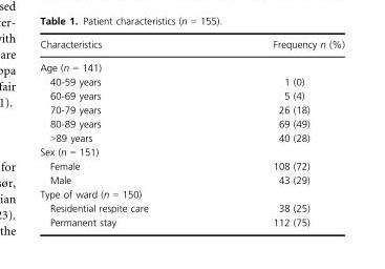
<table><thead><tr><td>Characteristics</td><td>Frequency n (%)</td></tr></thead><tbody><tr><td colspan="2">Age (n = 141)</td></tr><tr><td>40-59 years</td><td>1 (0)</td></tr><tr><td>60-69 years</td><td>5 (4)</td></tr><tr><td>70-79 years</td><td>26 (18)</td></tr><tr><td>80-89 years</td><td>69 (49)</td></tr><tr><td>&gt;89 years</td><td>40 (28)</td></tr><tr><td colspan="2">Sex (n = 151)</td></tr><tr><td>Female</td><td>108 (72)</td></tr><tr><td>Male</td><td>43 (29)</td></tr><tr><td colspan="2">Type of ward (n = 150)</td></tr><tr><td>Residential respite care</td><td>38 (25)</td></tr><tr><td>Permanent stay</td><td>112 (75)</td></tr></tbody></table>